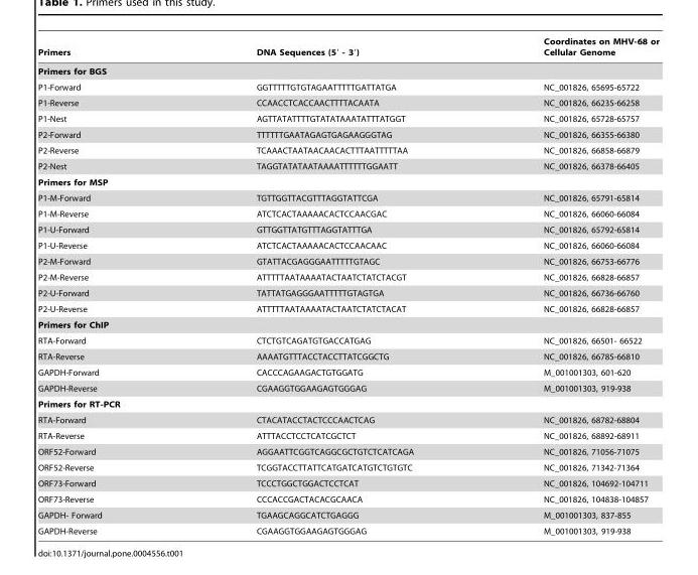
<table><thead><tr><td>Primers</td><td>DNA Sequences (5′ - 3′)</td><td>Coordinates on MHV-68 or Cellular Genome</td></tr></thead><tbody><tr><td colspan="3">Primers for BGS</td></tr><tr><td>P1-Forward</td><td>GGTTTTTGTGTAGAATTTTTGATTATGA</td><td>NC_001826, 65695-65722</td></tr><tr><td>P1-Reverse</td><td>CCAACCTCACCAACTTTTACAATA</td><td>NC_001826, 66235-66258</td></tr><tr><td>P1-Nest</td><td>AGTTATATTTTGTATATAAATATTTATGGT</td><td>NC_001826, 65728-65757</td></tr><tr><td>P2-Forward</td><td>TTTTTTGAATAGAGTGAGAAGGGTAG</td><td>NC_001826, 66355-66380</td></tr><tr><td>P2-Reverse</td><td>TCAAACTAATAACAACACTTTAATTTTTAA</td><td>NC_001826, 66858-66879</td></tr><tr><td>P2-Nest</td><td>TAGGTATATAATAAAATTTTTTGGAATT</td><td>NC_001826, 66378-66405</td></tr><tr><td colspan="3">Primers for MSP</td></tr><tr><td>P1-M-Forward</td><td>TGTTGGTTACGTTTAGGTATTCGA</td><td>NC_001826, 65791-65814</td></tr><tr><td>P1-M-Reverse</td><td>ATCTCACTAAAAACACTCCAACGAC</td><td>NC_001826, 66060-66084</td></tr><tr><td>P1-U-Forward</td><td>GTTGGTTATGTTTAGGTATTTGA</td><td>NC_001826, 65792-65814</td></tr><tr><td>P1-U-Reverse</td><td>ATCTCACTAAAAACACTCCAACAAC</td><td>NC_001826, 66060-66084</td></tr><tr><td>P2-M-Forward</td><td>GTATTACGAGGGAATTTTTGTAGC</td><td>NC_001826, 66753-66776</td></tr><tr><td>P2-M-Reverse</td><td>ATTTTTAATAAAATACTAATCTATCTACGT</td><td>NC_001826, 66828-66857</td></tr><tr><td>P2-U-Forward</td><td>TATTATGAGGGAATTTTTGTAGTGA</td><td>NC_001826, 66736-66760</td></tr><tr><td>P2-U-Reverse</td><td>ATTTTTAATAAAATACTAATCTATCTACAT</td><td>NC_001826, 66828-66857</td></tr><tr><td colspan="3">Primers for ChIP</td></tr><tr><td>RTA-Forward</td><td>CTCTGTCAGATGTGACCATGAG</td><td>NC_001826, 66501- 66522</td></tr><tr><td>RTA-Reverse</td><td>AAAATGTTTACCTACCTTATCGGCTG</td><td>NC_001826, 66785-66810</td></tr><tr><td>GAPDH-Forward</td><td>CACCCAGAAGACTGTGGATG</td><td>M_001001303, 601-620</td></tr><tr><td>GAPDH-Reverse</td><td>CGAAGGTGGAAGAGTGGGAG</td><td>M_001001303, 919-938</td></tr><tr><td colspan="3">Primers for RT-PCR</td></tr><tr><td>RTA-Forward</td><td>CTACATACCTACTCCCAACTCAG</td><td>NC_001826, 68782-68804</td></tr><tr><td>RTA-Reverse</td><td>ATTTACCTCCTCATCGCTCT</td><td>NC_001826, 68892-68911</td></tr><tr><td>ORF52-Forward</td><td>AGGAATTCGGTCAGGCGCTGTCTCATCAGA</td><td>NC_001826, 71056-71075</td></tr><tr><td>ORF52-Reverse</td><td>TCGGTACCTTATTCATGATCATGTCTGTGTC</td><td>NC_001826, 71342-71364</td></tr><tr><td>ORF73-Forward</td><td>TCCCTGGCTGGACTCCTCAT</td><td>NC_001826, 104692-104711</td></tr><tr><td>ORF73-Reverse</td><td>CCCACCGACTACACGCAACA</td><td>NC_001826, 104838-104857</td></tr><tr><td>GAPDH- Forward</td><td>TGAAGCAGGCATCTGAGGG</td><td>M_001001303, 837-855</td></tr><tr><td>GAPDH-Reverse</td><td>CGAAGGTGGAAGAGTGGGAG</td><td>M_001001303, 919-938</td></tr></tbody></table>